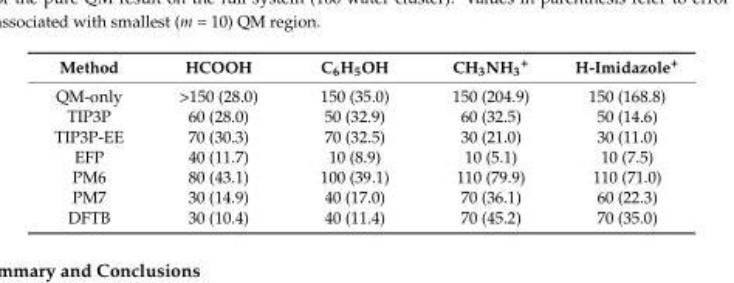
<table><thead><tr><td>Method</td><td>HCOOH</td><td>C<sub>6</sub>H<sub>5</sub>OH</td><td>CH<sub>3</sub>NH<sub>3</sub><sup>+</sup></td><td>H-Imidazole<sup>+</sup></td></tr></thead><tbody><tr><td>QM-only</td><td>&gt;150 (28.0)</td><td>150 (35.0)</td><td>150 (204.9)</td><td>150 (168.8)</td></tr><tr><td>TIP3P</td><td>60 (28.0)</td><td>50 (32.9)</td><td>60 (32.5)</td><td>50 (14.6)</td></tr><tr><td>TIP3P-EE</td><td>70 (30.3)</td><td>70 (32.5)</td><td>30 (21.0)</td><td>30 (11.0)</td></tr><tr><td>EFP</td><td>40 (11.7)</td><td>10 (8.9)</td><td>10 (5.1)</td><td>10 (7.5)</td></tr><tr><td>PM6</td><td>80 (43.1)</td><td>100 (39.1)</td><td>110 (79.9)</td><td>110 (71.0)</td></tr><tr><td>PM7</td><td>30 (14.9)</td><td>40 (17.0)</td><td>70 (36.1)</td><td>60 (22.3)</td></tr><tr><td>DFTB</td><td>30 (10.4)</td><td>40 (11.4)</td><td>70 (45.2)</td><td>70 (35.0)</td></tr></tbody></table>